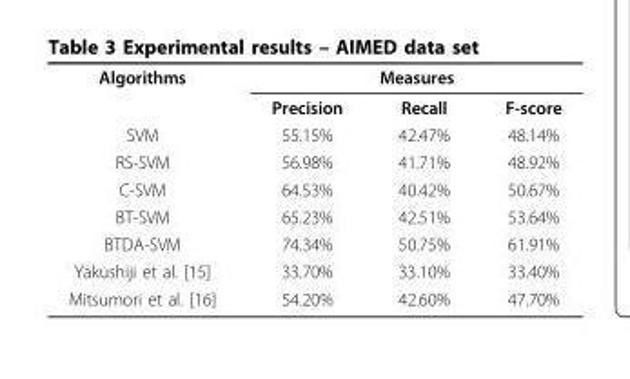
<table><tbody><tr><td rowspan="2">Algorithms</td><td colspan="3">Measures</td></tr><tr><td>Precision</td><td>Recall</td><td>F-score</td></tr><tr><td>SVM</td><td>55.15%</td><td>42.47%</td><td>48.14%</td></tr><tr><td>RS-SVM</td><td>56.98%</td><td>41.71%</td><td>48.92%</td></tr><tr><td>C-SVM</td><td>64.53%</td><td>40.42%</td><td>50.67%</td></tr><tr><td>BT-SVM</td><td>65.23%</td><td>42.51%</td><td>53.64%</td></tr><tr><td>BTDA-SVM</td><td>74.34%</td><td>50.75%</td><td>61.91%</td></tr><tr><td>Yakushiji et al. [15]</td><td>33.70%</td><td>33.10%</td><td>33.40%</td></tr><tr><td>Mitsumori et al. [16]</td><td>54.20%</td><td>42.60%</td><td>47.70%</td></tr></tbody></table>